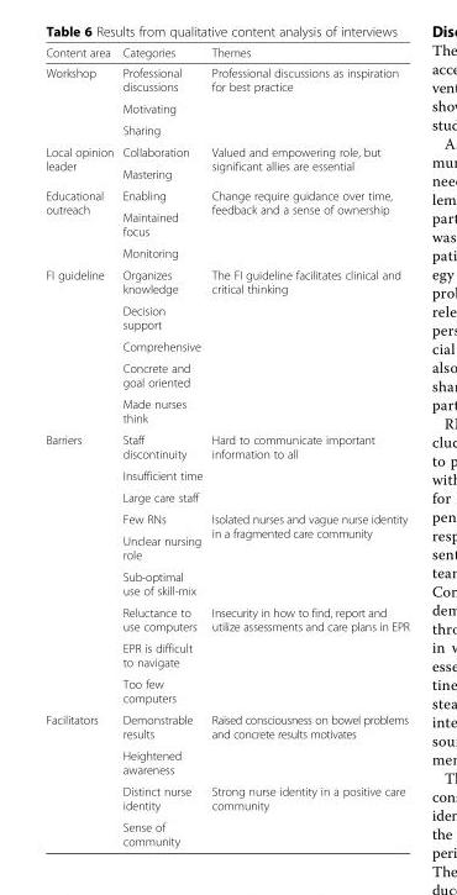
<table><thead><tr><td>Content area</td><td>Categories</td><td>Themes</td></tr></thead><tbody><tr><td rowspan="3">Workshop</td><td>Professional discussions</td><td rowspan="3">Professional discussions as inspiration for best practice</td></tr><tr><td>Motivating</td></tr><tr><td>Sharing</td></tr><tr><td rowspan="2">Local opinion leader</td><td>Collaboration</td><td rowspan="2">Valued and empowering role, but significant allies are essential</td></tr><tr><td>Mastering</td></tr><tr><td rowspan="3">Educational outreach</td><td>Enabling</td><td rowspan="3">Change require guidance over time, feedback and a sense of ownership</td></tr><tr><td>Maintained focus</td></tr><tr><td>Monitoring</td></tr><tr><td rowspan="5">FI guideline</td><td>Organizes knowledge</td><td rowspan="5">The FI guideline facilitates clinical and critical thinking</td></tr><tr><td>Decision support</td></tr><tr><td>Comprehensive</td></tr><tr><td>Concrete and goal oriented</td></tr><tr><td>Made nurses think</td></tr><tr><td rowspan="9">Barriers</td><td>Staff discontinuity</td><td rowspan="3">Hard to communicate important information to all</td></tr><tr><td>Insufficient time</td></tr><tr><td>Large care staff</td></tr><tr><td>Few RNs</td><td rowspan="2">Isolated nurses and vague nurse identity in a fragmented care community</td></tr><tr><td>Unclear nursing role</td></tr><tr><td>Sub-optimal use of skill-mix</td><td></td></tr><tr><td>Reluctance to use computers</td><td rowspan="3">Insecurity in how to find, report and utilize assessments and care plans in EPR</td></tr><tr><td>EPR is difficult to navigate</td></tr><tr><td>Too few computers</td></tr><tr><td rowspan="4">Facilitators</td><td>Demonstrable results</td><td rowspan="2">Raised consciousness on bowel problems and concrete results motivates</td></tr><tr><td>Heightened awareness</td></tr><tr><td>Distinct nurse identity</td><td rowspan="2">Strong nurse identity in a positive care community</td></tr><tr><td>Sense of community</td></tr></tbody></table>